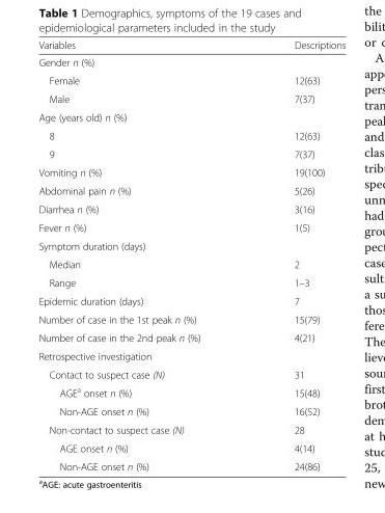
<table><thead><tr><td>Variables</td><td>Descriptions</td></tr></thead><tbody><tr><td colspan="2">Gender n (%)</td></tr><tr><td>Female</td><td>12(63)</td></tr><tr><td>Male</td><td>7(37)</td></tr><tr><td colspan="2">Age (years old) n (%)</td></tr><tr><td>8</td><td>12(63)</td></tr><tr><td>9</td><td>7(37)</td></tr><tr><td>Vomiting n (%)</td><td>19(100)</td></tr><tr><td>Abdominal pain n (%)</td><td>5(26)</td></tr><tr><td>Diarrhea n (%)</td><td>3(16)</td></tr><tr><td>Fever n (%)</td><td>1(5)</td></tr><tr><td colspan="2">Symptom duration (days)</td></tr><tr><td>Median</td><td>2</td></tr><tr><td>Range</td><td>1–3</td></tr><tr><td>Epidemic duration (days)</td><td>7</td></tr><tr><td>Number of case in the 1st peak n (%)</td><td>15(79)</td></tr><tr><td>Number of case in the 2nd peak n (%)</td><td>4(21)</td></tr><tr><td colspan="2">Retrospective investigation</td></tr><tr><td>Contact to suspect case (N)</td><td>31</td></tr><tr><td>AGE<sup>a</sup> onset n (%)</td><td>15(48)</td></tr><tr><td>Non-AGE onset n (%)</td><td>16(52)</td></tr><tr><td>Non-contact to suspect case (N)</td><td>28</td></tr><tr><td>AGE onset n (%)</td><td>4(14)</td></tr><tr><td>Non-AGE onset n (%)</td><td>24(86)</td></tr></tbody></table>